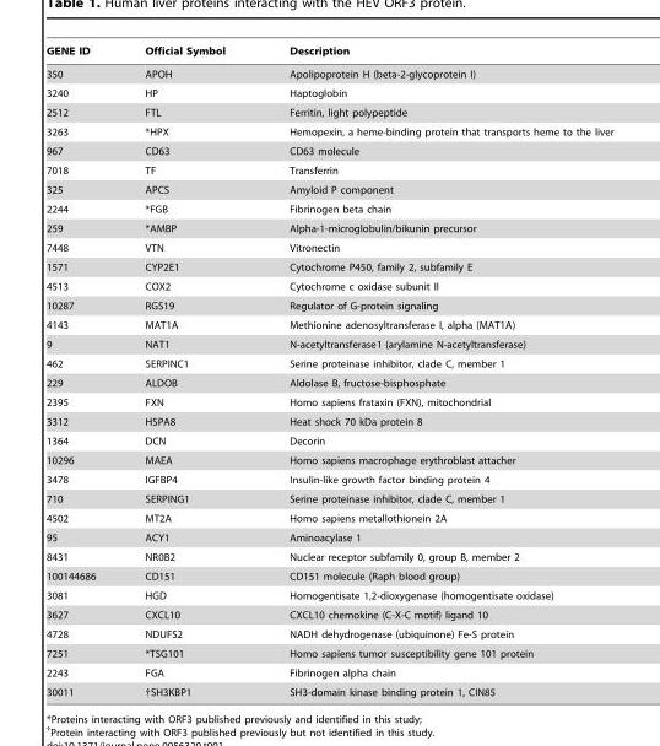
<table><thead><tr><td>GENE ID</td><td>Official Symbol</td><td>Description</td></tr></thead><tbody><tr><td>350</td><td>APOH</td><td>Apolipoprotein H (beta-2-glycoprotein I)</td></tr><tr><td>3240</td><td>HP</td><td>Haptoglobin</td></tr><tr><td>2512</td><td>FTL</td><td>Ferritin, light polypeptide</td></tr><tr><td>3263</td><td>*HPX</td><td>Hemopexin, a heme-binding protein that transports heme to the liver</td></tr><tr><td>967</td><td>CD63</td><td>CD63 molecule</td></tr><tr><td>7018</td><td>TF</td><td>Transferrin</td></tr><tr><td>325</td><td>APCS</td><td>Amyloid P component</td></tr><tr><td>2244</td><td>*FGB</td><td>Fibrinogen beta chain</td></tr><tr><td>259</td><td>*AMBP</td><td>Alpha-1-microglobulin/bikunin precursor</td></tr><tr><td>7448</td><td>VTN</td><td>Vitronectin</td></tr><tr><td>1571</td><td>CYP2E1</td><td>Cytochrome P450, family 2, subfamily E</td></tr><tr><td>4513</td><td>COX2</td><td>Cytochrome c oxidase subunit II</td></tr><tr><td>10287</td><td>RGS19</td><td>Regulator of G-protein signaling</td></tr><tr><td>4143</td><td>MAT1A</td><td>Methionine adenosyltransferase I, alpha (MAT1A)</td></tr><tr><td>9</td><td>NAT1</td><td>N-acetyltransferase1 (arylamine N-acetyltransferase)</td></tr><tr><td>462</td><td>SERPINC1</td><td>Serine proteinase inhibitor, clade C, member 1</td></tr><tr><td>229</td><td>ALDOB</td><td>Aldolase B, fructose-bisphosphate</td></tr><tr><td>2395</td><td>FXN</td><td>Homo sapiens frataxin (FXN), mitochondrial</td></tr><tr><td>3312</td><td>HSPA8</td><td>Heat shock 70 kDa protein 8</td></tr><tr><td>1364</td><td>DCN</td><td>Decorin</td></tr><tr><td>10296</td><td>MAEA</td><td>Homo sapiens macrophage erythroblast attacher</td></tr><tr><td>3478</td><td>IGFBP4</td><td>Insulin-like growth factor binding protein 4</td></tr><tr><td>710</td><td>SERPING1</td><td>Serine proteinase inhibitor, clade C, member 1</td></tr><tr><td>4502</td><td>MT2A</td><td>Homo sapiens metallothionein 2A</td></tr><tr><td>95</td><td>ACY1</td><td>Aminoacylase 1</td></tr><tr><td>8431</td><td>NR0B2</td><td>Nuclear receptor subfamily 0, group B, member 2</td></tr><tr><td>100144686</td><td>CD151</td><td>CD151 molecule (Raph blood group)</td></tr><tr><td>3081</td><td>HGD</td><td>Homogentisate 1,2-dioxygenase (homogentisate oxidase)</td></tr><tr><td>3627</td><td>CXCL10</td><td>CXCL10 chemokine (C-X-C motif) ligand 10</td></tr><tr><td>4728</td><td>NDUFS2</td><td>NADH dehydrogenase (ubiquinone) Fe-S protein</td></tr><tr><td>7251</td><td>*TSG101</td><td>Homo sapiens tumor susceptibility gene 101 protein</td></tr><tr><td>2243</td><td>FGA</td><td>Fibrinogen alpha chain</td></tr><tr><td>30011</td><td>†SH3KBP1</td><td>SH3-domain kinase binding protein 1, CIN85</td></tr></tbody></table>